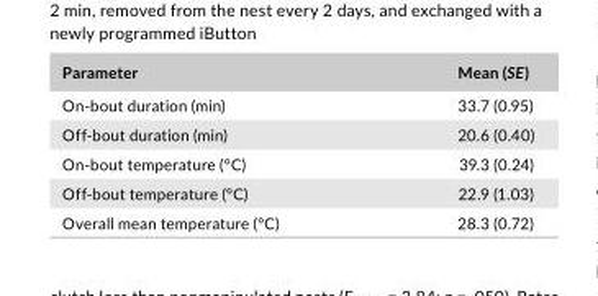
<table><thead><tr><td>Parameter</td><td>Mean (SE)</td></tr></thead><tbody><tr><td>On- bout duration (min)</td><td>33.7 (0.95)</td></tr><tr><td>Off- bout duration (min)</td><td>20.6 (0.40)</td></tr><tr><td>On- bout temperature (°C)</td><td>39.3 (0.24)</td></tr><tr><td>Off- bout temperature (°C)</td><td>22.9 (1.03)</td></tr><tr><td>Overall mean temperature (°C)</td><td>28.3 (0.72)</td></tr></tbody></table>